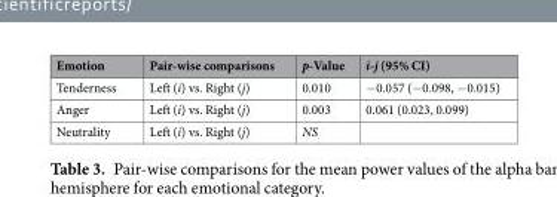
<table><thead><tr><td>Emotion</td><td>Pair-wise comparisons</td><td>p-Value</td><td>i-j (95% CI)</td></tr></thead><tbody><tr><td>Tenderness</td><td>Left (i) vs. Right (j)</td><td>0.010</td><td>−0.057 (−0.098, −0.015)</td></tr><tr><td>Anger</td><td>Left (i) vs. Right (j)</td><td>0.003</td><td>0.061 (0.023, 0.099)</td></tr><tr><td>Neutrality</td><td>Left (i) vs. Right (j)</td><td>NS</td><td></td></tr></tbody></table>